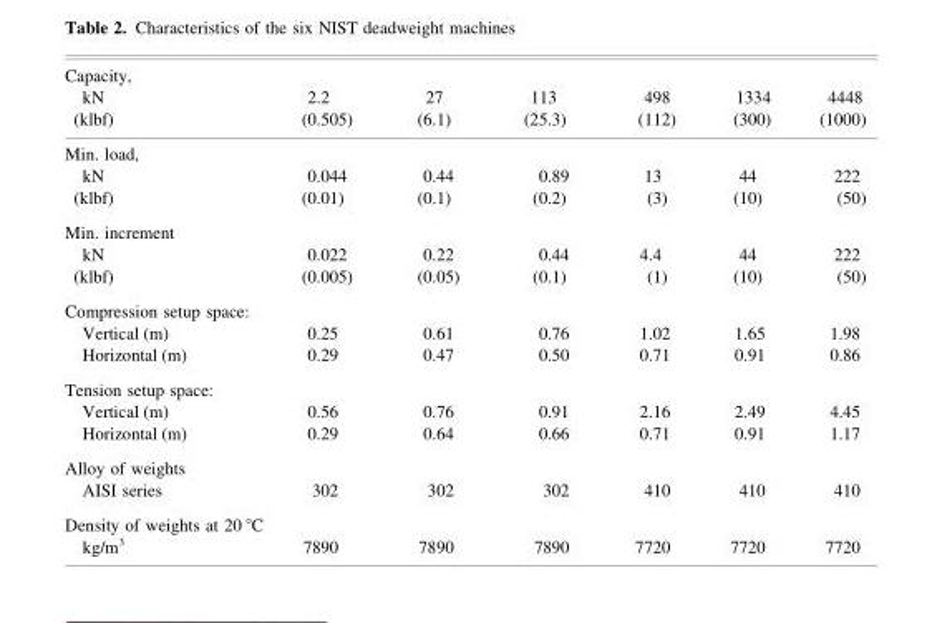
<table><thead><tr><td>Capacity, kN (klbf)</td><td>2.2 (0.505)</td><td>27 (6.1)</td><td>113 (25.3)</td><td>498 (112)</td><td>1334 (300)</td><td>4448 (1000)</td></tr></thead><tbody><tr><td colspan="7">Min. load,</td></tr><tr><td>kN</td><td>0.044</td><td>0.44</td><td>0.89</td><td>13</td><td>44</td><td>222</td></tr><tr><td>(klbf)</td><td>(0.01)</td><td>(0.1)</td><td>(0.2)</td><td>(3)</td><td>(10)</td><td>(50)</td></tr><tr><td colspan="7">Min. increment</td></tr><tr><td>kN</td><td>0.022</td><td>0.22</td><td>0.44</td><td>4.4</td><td>44</td><td>222</td></tr><tr><td>(klbf)</td><td>(0.005)</td><td>(0.05)</td><td>(0.1)</td><td>(1)</td><td>(10)</td><td>(50)</td></tr><tr><td colspan="7">Compression setup space:</td></tr><tr><td>Vertical (m)</td><td>0.25</td><td>0.61</td><td>0.76</td><td>1.02</td><td>1.65</td><td>1.98</td></tr><tr><td>Horizontal (m)</td><td>0.29</td><td>0.47</td><td>0.50</td><td>0.71</td><td>0.91</td><td>0.86</td></tr><tr><td colspan="7">Tension setup space:</td></tr><tr><td>Vertical (m)</td><td>0.56</td><td>0.76</td><td>0.91</td><td>2.16</td><td>2.49</td><td>4.45</td></tr><tr><td>Horizontal (m)</td><td>0.29</td><td>0.64</td><td>0.66</td><td>0.71</td><td>0.91</td><td>1.17</td></tr><tr><td colspan="7">Alloy of weights</td></tr><tr><td>AISI series</td><td>302</td><td>302</td><td>302</td><td>410</td><td>410</td><td>410</td></tr><tr><td colspan="7">Density of weights at 20 °C</td></tr><tr><td>kg/m<sup>3</sup></td><td>7890</td><td>7890</td><td>7890</td><td>7720</td><td>7720</td><td>7720</td></tr></tbody></table>